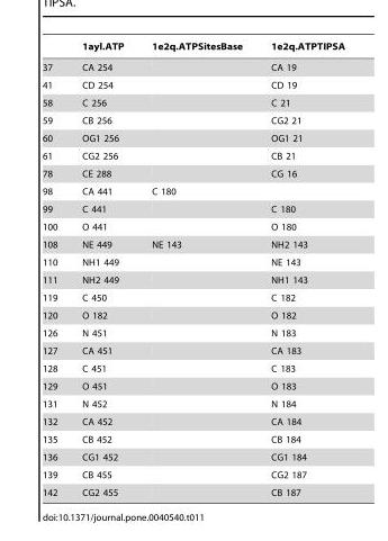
<table><thead><tr><td></td><td>1ayl.ATP</td><td>1e2q.ATPSitesBase</td><td>1e2q.ATPTIPSA</td></tr></thead><tbody><tr><td>37</td><td>CA 254</td><td></td><td>CA 19</td></tr><tr><td>41</td><td>CD 254</td><td></td><td>CD 19</td></tr><tr><td>58</td><td>C 256</td><td></td><td>C 21</td></tr><tr><td>59</td><td>CB 256</td><td></td><td>CG2 21</td></tr><tr><td>60</td><td>OG1 256</td><td></td><td>OG1 21</td></tr><tr><td>61</td><td>CG2 256</td><td></td><td>CB 21</td></tr><tr><td>78</td><td>CE 288</td><td></td><td>CG 16</td></tr><tr><td>98</td><td>CA 441</td><td>C 180</td><td></td></tr><tr><td>99</td><td>C 441</td><td></td><td>C 180</td></tr><tr><td>100</td><td>O 441</td><td></td><td>O 180</td></tr><tr><td>108</td><td>NE 449</td><td>NE 143</td><td>NH2 143</td></tr><tr><td>110</td><td>NH1 449</td><td></td><td>NE 143</td></tr><tr><td>111</td><td>NH2 449</td><td></td><td>NH1 143</td></tr><tr><td>119</td><td>C 450</td><td></td><td>C 182</td></tr><tr><td>120</td><td>O 182</td><td></td><td>O 182</td></tr><tr><td>126</td><td>N 451</td><td></td><td>N 183</td></tr><tr><td>127</td><td>CA 451</td><td></td><td>CA 183</td></tr><tr><td>128</td><td>C 451</td><td></td><td>C 183</td></tr><tr><td>129</td><td>O 451</td><td></td><td>O 183</td></tr><tr><td>131</td><td>N 452</td><td></td><td>N 184</td></tr><tr><td>132</td><td>CA 452</td><td></td><td>CA 184</td></tr><tr><td>135</td><td>CB 452</td><td></td><td>CB 184</td></tr><tr><td>136</td><td>CG1 452</td><td></td><td>CG1 184</td></tr><tr><td>139</td><td>CB 455</td><td></td><td>CG2 187</td></tr><tr><td>142</td><td>CG2 455</td><td></td><td>CB 187</td></tr></tbody></table>